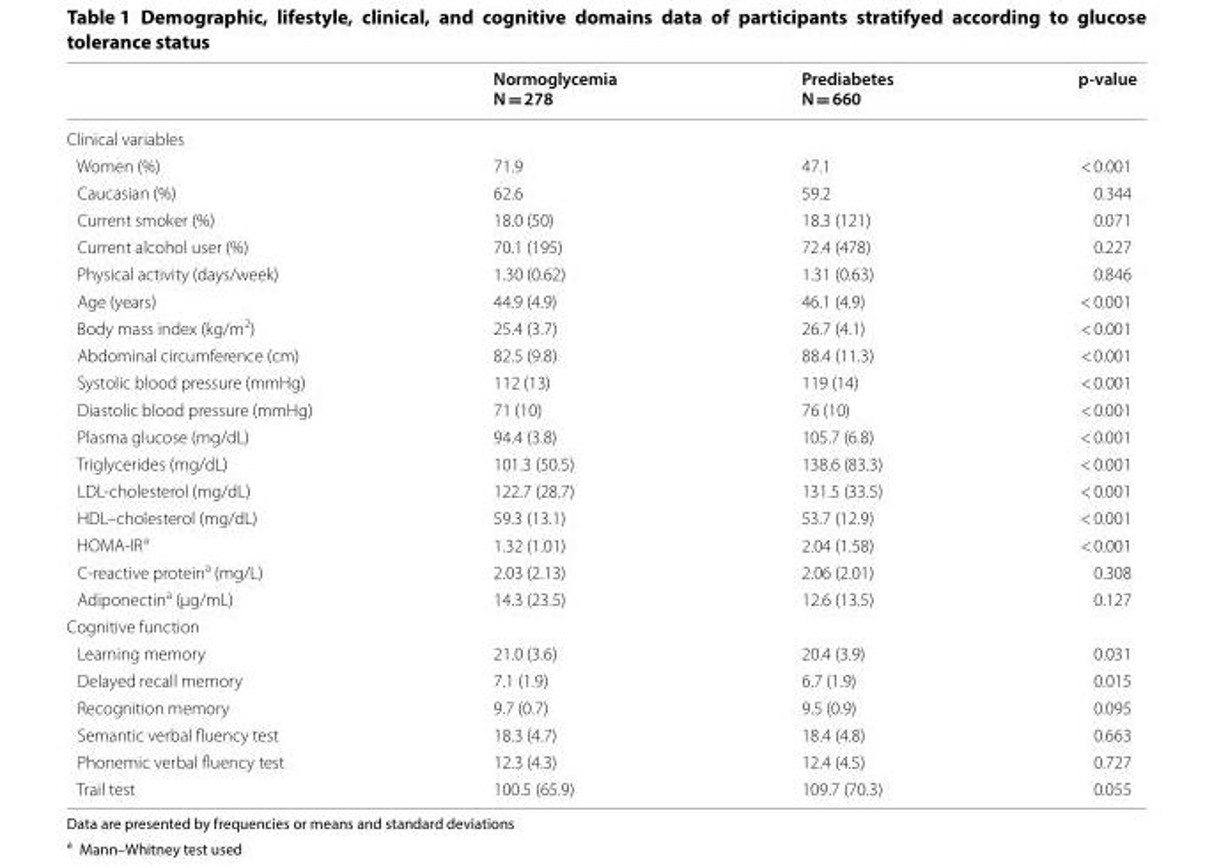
<table><thead><tr><td></td><td>Normoglycemia N = 278</td><td>Prediabetes N = 660</td><td>p-value</td></tr></thead><tbody><tr><td colspan="4">Clinical variables</td></tr><tr><td>Women (%)</td><td>71.9</td><td>47.1</td><td>&lt; 0.001</td></tr><tr><td>Caucasian (%)</td><td>62.6</td><td>59.2</td><td>0.344</td></tr><tr><td>Current smoker (%)</td><td>18.0 (50)</td><td>18.3 (121)</td><td>0.071</td></tr><tr><td>Current alcohol user (%)</td><td>70.1 (195)</td><td>72.4 (478)</td><td>0.227</td></tr><tr><td>Physical activity (days/week)</td><td>1.30 (0.62)</td><td>1.31 (0.63)</td><td>0.846</td></tr><tr><td>Age (years)</td><td>44.9 (4.9)</td><td>46.1 (4.9)</td><td>&lt; 0.001</td></tr><tr><td>Body mass index (kg/m<sup>2</sup>)</td><td>25.4 (3.7)</td><td>26.7 (4.1)</td><td>&lt; 0.001</td></tr><tr><td>Abdominal circumference (cm)</td><td>82.5 (9.8)</td><td>88.4 (11.3)</td><td>&lt; 0.001</td></tr><tr><td>Systolic blood pressure (mmHg)</td><td>112 (13)</td><td>119 (14)</td><td>&lt; 0.001</td></tr><tr><td>Diastolic blood pressure (mmHg)</td><td>71 (10)</td><td>76 (10)</td><td>&lt; 0.001</td></tr><tr><td>Plasma glucose (mg/dL)</td><td>94.4 (3.8)</td><td>105.7 (6.8)</td><td>&lt; 0.001</td></tr><tr><td>Triglycerides (mg/dL)</td><td>101.3 (50.5)</td><td>138.6 (83.3)</td><td>&lt; 0.001</td></tr><tr><td>LDL‑cholesterol (mg/dL)</td><td>122.7 (28.7)</td><td>131.5 (33.5)</td><td>&lt; 0.001</td></tr><tr><td>HDL–cholesterol (mg/dL)</td><td>59.3 (13.1)</td><td>53.7 (12.9)</td><td>&lt; 0.001</td></tr><tr><td>HOMA‑IR<sup>a</sup></td><td>1.32 (1.01)</td><td>2.04 (1.58)</td><td>&lt; 0.001</td></tr><tr><td>C‑reactive protein<sup>a</sup> (mg/L)</td><td>2.03 (2.13)</td><td>2.06 (2.01)</td><td>0.308</td></tr><tr><td>Adiponectin<sup>a</sup> (μg/mL)</td><td>14.3 (23.5)</td><td>12.6 (13.5)</td><td>0.127</td></tr><tr><td colspan="4">Cognitive function</td></tr><tr><td>Learning memory</td><td>21.0 (3.6)</td><td>20.4 (3.9)</td><td>0.031</td></tr><tr><td>Delayed recall memory</td><td>7.1 (1.9)</td><td>6.7 (1.9)</td><td>0.015</td></tr><tr><td>Recognition memory</td><td>9.7 (0.7)</td><td>9.5 (0.9)</td><td>0.095</td></tr><tr><td>Semantic verbal fluency test</td><td>18.3 (4.7)</td><td>18.4 (4.8)</td><td>0.663</td></tr><tr><td>Phonemic verbal fluency test</td><td>12.3 (4.3)</td><td>12.4 (4.5)</td><td>0.727</td></tr><tr><td>Trail test</td><td>100.5 (65.9)</td><td>109.7 (70.3)</td><td>0.055</td></tr></tbody></table>